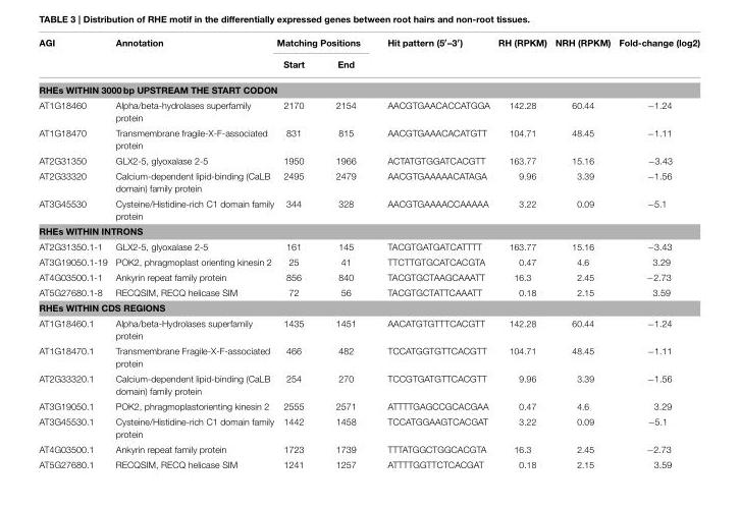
<table><thead><tr><td rowspan="2">AGI</td><td rowspan="2">Annotation</td><td colspan="2">Matching Positions</td><td rowspan="2">Hit pattern (5′–3′)</td><td rowspan="2">RH (RPKM)</td><td rowspan="2">NRH (RPKM)</td><td rowspan="2">Fold-change (log2)</td></tr><tr><td>Start</td><td>End</td></tr></thead><tbody><tr><td colspan="8">RHEs WITHIN 3000 bp UPSTREAM THE START CODON</td></tr><tr><td>AT1G18460</td><td>Alpha/beta-hydrolases superfamily protein</td><td>2170</td><td>2154</td><td>AACGTGAACACCATGGA</td><td>142.28</td><td>60.44</td><td>−1.24</td></tr><tr><td>AT1G18470</td><td>Transmembrane fragile-X-F-associated protein</td><td>831</td><td>815</td><td>AACGTGAAACACATGTT</td><td>104.71</td><td>48.45</td><td>−1.11</td></tr><tr><td>AT2G31350</td><td>GLX2-5, glyoxalase 2-5</td><td>1950</td><td>1966</td><td>ACTATGTGGATCACGTT</td><td>163.77</td><td>15.16</td><td>−3.43</td></tr><tr><td>AT2G33320</td><td>Calcium-dependent lipid-binding (CaLB domain) family protein</td><td>2495</td><td>2479</td><td>AACGTGAAAAACATAGA</td><td>9.96</td><td>3.39</td><td>−1.56</td></tr><tr><td>AT3G45530</td><td>Cysteine/Histidine-rich C1 domain family protein</td><td>344</td><td>328</td><td>AACGTGAAAACCAAAAA</td><td>3.22</td><td>0.09</td><td>−5.1</td></tr><tr><td colspan="8">RHEs WITHIN INTRONS</td></tr><tr><td>AT2G31350.1-1</td><td>GLX2-5, glyoxalase 2-5</td><td>161</td><td>145</td><td>TACGTGATGATCATTTT</td><td>163.77</td><td>15.16</td><td>−3.43</td></tr><tr><td>AT3G19050.1-19</td><td>POK2, phragmoplast orienting kinesin 2</td><td>25</td><td>41</td><td>TTCTTGTGCATCACGTA</td><td>0.47</td><td>4.6</td><td>3.29</td></tr><tr><td>AT4G03500.1-1</td><td>Ankyrin repeat family protein</td><td>856</td><td>840</td><td>TACGTGCTAAGCAAATT</td><td>16.3</td><td>2.45</td><td>−2.73</td></tr><tr><td>AT5G27680.1-8</td><td>RECQSIM, RECQ helicase SIM</td><td>72</td><td>56</td><td>TACGTGCTATTCAAATT</td><td>0.18</td><td>2.15</td><td>3.59</td></tr><tr><td colspan="8">RHEs WITHIN CDS REGIONS</td></tr><tr><td>AT1G18460.1</td><td>Alpha/beta-Hydrolases superfamily protein</td><td>1435</td><td>1451</td><td>AACATGTGTTTCACGTT</td><td>142.28</td><td>60.44</td><td>−1.24</td></tr><tr><td>AT1G18470.1</td><td>Transmembrane Fragile-X-F-associated protein</td><td>466</td><td>482</td><td>TCCATGGTGTTCACGTT</td><td>104.71</td><td>48.45</td><td>−1.11</td></tr><tr><td>AT2G33320.1</td><td>Calcium-dependent lipid-binding (CaLB domain) family protein</td><td>254</td><td>270</td><td>TCCGTGATGTTCACGTT</td><td>9.96</td><td>3.39</td><td>−1.56</td></tr><tr><td>AT3G19050.1</td><td>POK2, phragmoplastorienting kinesin 2</td><td>2555</td><td>2571</td><td>ATTTTGAGCCGCACGAA</td><td>0.47</td><td>4.6</td><td>3.29</td></tr><tr><td>AT3G45530.1</td><td>Cysteine/Histidine-rich C1 domain family protein</td><td>1442</td><td>1458</td><td>TCCATGGAAGTCACGAT</td><td>3.22</td><td>0.09</td><td>−5.1</td></tr><tr><td>AT4G03500.1</td><td>Ankyrin repeat family protein</td><td>1723</td><td>1739</td><td>TTTATGGCTGGCACGTA</td><td>16.3</td><td>2.45</td><td>−2.73</td></tr><tr><td>AT5G27680.1</td><td>RECQSIM, RECQ helicase SIM</td><td>1241</td><td>1257</td><td>ATTTTGGTTCTCACGAT</td><td>0.18</td><td>2.15</td><td>3.59</td></tr></tbody></table>